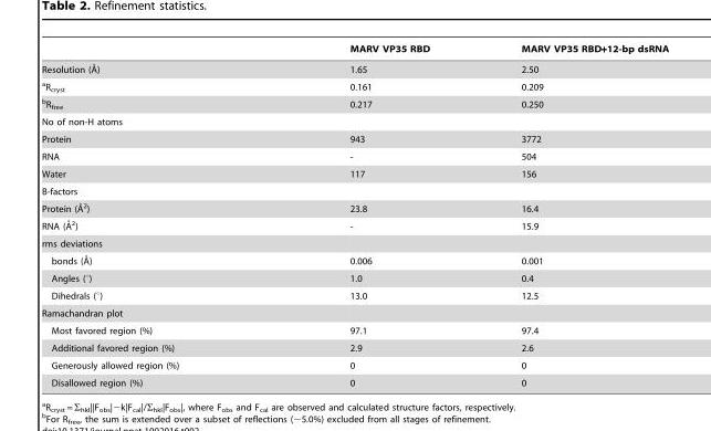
<table><thead><tr><td></td><td>MARV VP35 RBD</td><td>MARV VP35 RBD+12-bp dsRNA</td></tr></thead><tbody><tr><td>Resolution (A˚)</td><td>1.65</td><td>2.50</td></tr><tr><td>aR<sub>cryst</sub></td><td>0.161</td><td>0.209</td></tr><tr><td>bR<sub>free</sub></td><td>0.217</td><td>0.250</td></tr><tr><td colspan="3">No of non-H atoms</td></tr><tr><td>Protein</td><td>943</td><td>3772</td></tr><tr><td>RNA</td><td>-</td><td>504</td></tr><tr><td>Water</td><td>117</td><td>156</td></tr><tr><td colspan="3">B-factors</td></tr><tr><td>Protein (A˚2)</td><td>23.8</td><td>16.4</td></tr><tr><td>RNA (A˚2)</td><td>-</td><td>15.9</td></tr><tr><td colspan="3">rms deviations</td></tr><tr><td>bonds (A˚)</td><td>0.006</td><td>0.001</td></tr><tr><td>Angles (°)</td><td>1.0</td><td>0.4</td></tr><tr><td>Dihedrals (°)</td><td>13.0</td><td>12.5</td></tr><tr><td colspan="3">Ramachandran plot</td></tr><tr><td>Most favored region (%)</td><td>97.1</td><td>97.4</td></tr><tr><td>Additional favored region (%)</td><td>2.9</td><td>2.6</td></tr><tr><td>Generously allowed region (%)</td><td>0</td><td>0</td></tr><tr><td>Disallowed region (%)</td><td>0</td><td>0</td></tr></tbody></table>